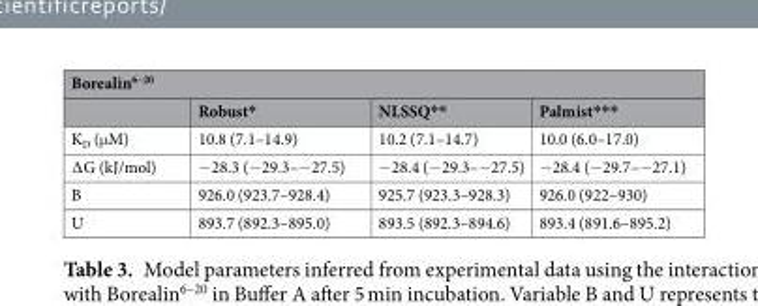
<table><thead><tr><td colspan="4">Borealin<sup>6–20</sup></td></tr><tr><td></td><td>Robust*</td><td>NLSSQ**</td><td>Palmist***</td></tr></thead><tbody><tr><td>K<sub>D</sub> (μM)</td><td>10.8 (7.1–14.9)</td><td>10.2 (7.1–14.7)</td><td>10.0 (6.0–17.0)</td></tr><tr><td>∆G (kJ/mol)</td><td>−28.3 (−29.3–−27.5)</td><td>−28.4 (−29.3–−27.5)</td><td>−28.4 (−29.7–−27.1)</td></tr><tr><td>B</td><td>926.0 (923.7–928.4)</td><td>925.7 (923.3–928.3)</td><td>926.0 (922–930)</td></tr><tr><td>U</td><td>893.7 (892.3–895.0)</td><td>893.5 (892.3–894.6)</td><td>893.4 (891.6–895.2)</td></tr></tbody></table>